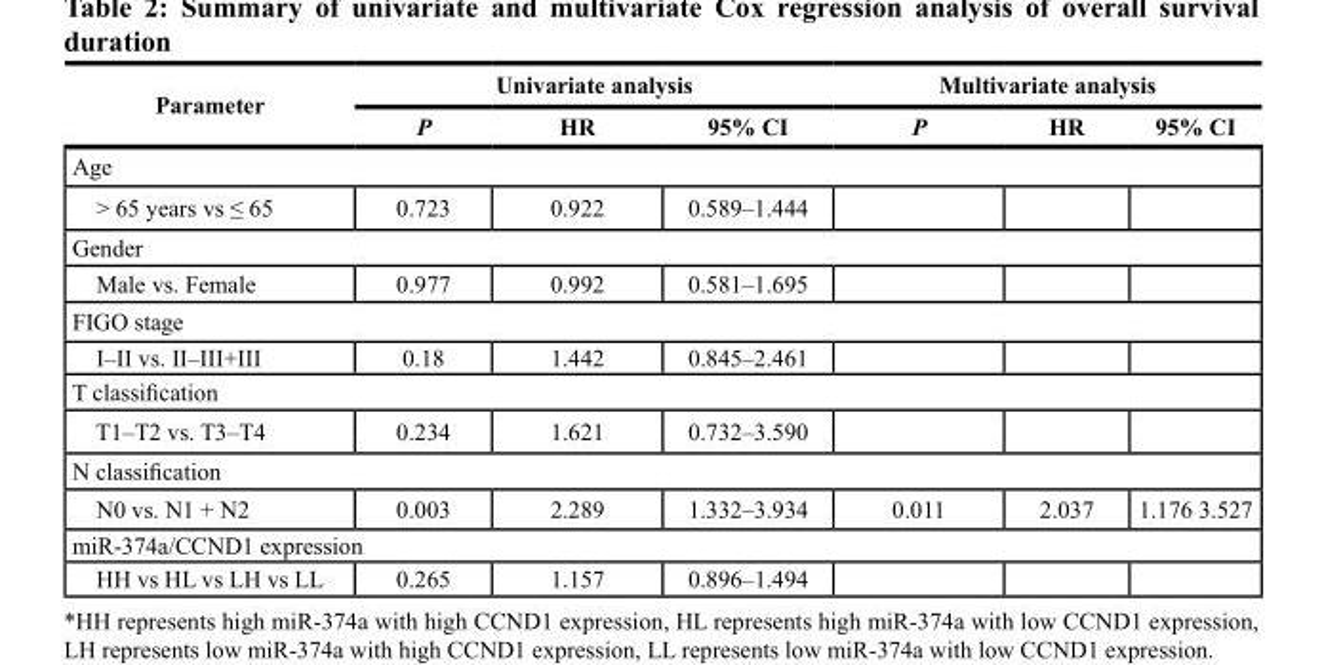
<table><thead><tr><td rowspan="2">Parameter</td><td colspan="3">univariate analysis</td><td colspan="3">Multivariate analysis</td></tr><tr><td>P</td><td>Hr</td><td>95% cI</td><td>P</td><td>Hr</td><td>95% cI</td></tr></thead><tbody><tr><td colspan="7">Age</td></tr><tr><td>&gt; 65 years vs ≤ 65</td><td>0.723</td><td>0.922</td><td>0.589–1.444</td><td></td><td></td><td></td></tr><tr><td colspan="7">Gender</td></tr><tr><td>Male vs. Female</td><td>0.977</td><td>0.992</td><td>0.581–1.695</td><td></td><td></td><td></td></tr><tr><td colspan="7">FIGO stage</td></tr><tr><td>I–II vs. II–III+III</td><td>0.18</td><td>1.442</td><td>0.845–2.461</td><td></td><td></td><td></td></tr><tr><td colspan="7">T classification</td></tr><tr><td>T1–T2 vs. T3–T4</td><td>0.234</td><td>1.621</td><td>0.732–3.590</td><td></td><td></td><td></td></tr><tr><td colspan="7">N classification</td></tr><tr><td>N0 vs. N1 + N2</td><td>0.003</td><td>2.289</td><td>1.332–3.934</td><td>0.011</td><td>2.037</td><td>1.176 3.527</td></tr><tr><td colspan="7">miR-374a/CCND1 expression</td></tr><tr><td>HH vs HL vs LH vs LL</td><td>0.265</td><td>1.157</td><td>0.896–1.494</td><td></td><td></td><td></td></tr></tbody></table>